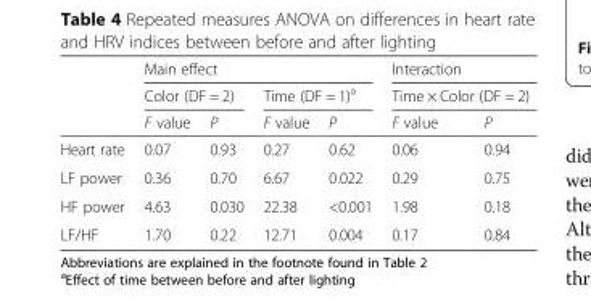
<table><thead><tr><td rowspan="3"></td><td colspan="4">Main effect</td><td rowspan="2" colspan="2">Interaction Time × Color (DF = 2)</td></tr><tr><td colspan="2">Color (DF = 2)</td><td colspan="2">Time (DF = 1)<sup>a</sup></td></tr><tr><td>F value</td><td>P</td><td>F value</td><td>P</td><td>F value</td><td>P</td></tr></thead><tbody><tr><td>Heart rate</td><td>0.07</td><td>0.93</td><td>0.27</td><td>0.62</td><td>0.06</td><td>0.94</td></tr><tr><td>LF power</td><td>0.36</td><td>0.70</td><td>6.67</td><td>0.022</td><td>0.29</td><td>0.75</td></tr><tr><td>HF power</td><td>4.63</td><td>0.030</td><td>22.38</td><td>&lt;0.001</td><td>1.98</td><td>0.18</td></tr><tr><td>LF/HF</td><td>1.70</td><td>0.22</td><td>12.71</td><td>0.004</td><td>0.17</td><td>0.84</td></tr></tbody></table>